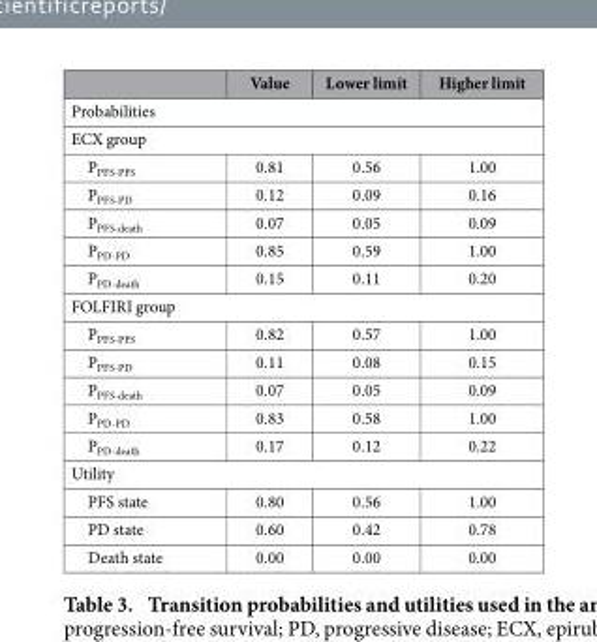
<table><thead><tr><td></td><td>Value</td><td>Lower limit</td><td>Higher limit</td></tr></thead><tbody><tr><td colspan="4">Probabilities</td></tr><tr><td colspan="4">ECX group</td></tr><tr><td>P<sub>PFS-PFS</sub></td><td>0.81</td><td>0.56</td><td>1.00</td></tr><tr><td>P<sub>PFS-PD</sub></td><td>0.12</td><td>0.09</td><td>0.16</td></tr><tr><td>P<sub>PFS-death</sub></td><td>0.07</td><td>0.05</td><td>0.09</td></tr><tr><td>P<sub>PD-PD</sub></td><td>0.85</td><td>0.59</td><td>1.00</td></tr><tr><td>P<sub>PD-death</sub></td><td>0.15</td><td>0.11</td><td>0.20</td></tr><tr><td colspan="4">FOLFIRI group</td></tr><tr><td>P<sub>PFS-PFS</sub></td><td>0.82</td><td>0.57</td><td>1.00</td></tr><tr><td>P<sub>PFS-PD</sub></td><td>0.11</td><td>0.08</td><td>0.15</td></tr><tr><td>P<sub>PFS-death</sub></td><td>0.07</td><td>0.05</td><td>0.09</td></tr><tr><td>P<sub>PD-PD</sub></td><td>0.83</td><td>0.58</td><td>1.00</td></tr><tr><td>P<sub>PD-death</sub></td><td>0.17</td><td>0.12</td><td>0.22</td></tr><tr><td colspan="4">Utility</td></tr><tr><td>PFS state</td><td>0.80</td><td>0.56</td><td>1.00</td></tr><tr><td>PD state</td><td>0.60</td><td>0.42</td><td>0.78</td></tr><tr><td>Death state</td><td>0.00</td><td>0.00</td><td>0.00</td></tr></tbody></table>